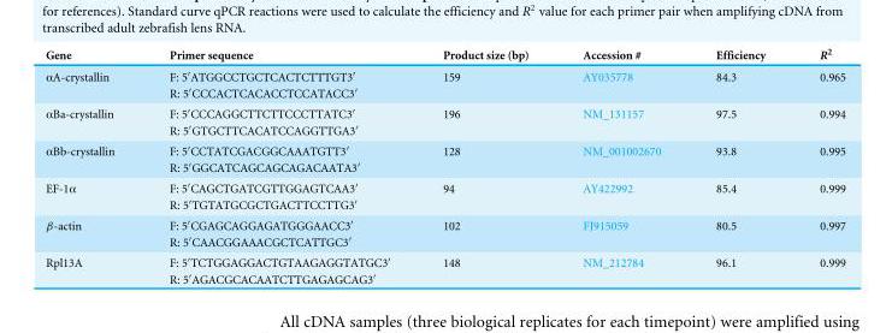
<table><thead><tr><td>Gene</td><td>Primer sequence</td><td>Product size (bp)</td><td>Accession #</td><td>Efficiency</td><td>R<sup>2</sup></td></tr></thead><tbody><tr><td>αA-crystallin</td><td>F: 5′ATGGCCTGCTCACTCTTTGT3′ R: 5′CCCACTCACACCTCCATACC3′</td><td>159</td><td>AY035778</td><td>84.3</td><td>0.965</td></tr><tr><td>αBa-crystallin</td><td>F: 5′CCCAGGCTTCTTCCCTTATC3′ R: 5′GTGCTTCACATCCAGGTTGA3′</td><td>196</td><td>NM_131157</td><td>97.5</td><td>0.994</td></tr><tr><td>αBb-crystallin</td><td>F: 5′CCTATCGACGGCAAATGTT3′ R: 5′GGCATCAGCAGCAGACAATA3′</td><td>128</td><td>NM_001002670</td><td>93.8</td><td>0.995</td></tr><tr><td>EF-1α</td><td>F: 5′CAGCTGATCGTTGGAGTCAA3′ R: 5′TGTATGCGCTGACTTCCTTG3′</td><td>94</td><td>AY422992</td><td>85.4</td><td>0.999</td></tr><tr><td>β-actin</td><td>F: 5′CGAGCAGGAGATGGGAACC3′ R: 5′CAACGGAAACGCTCATTGC3′</td><td>102</td><td>FJ915059</td><td>80.5</td><td>0.997</td></tr><tr><td>Rpl13A</td><td>F: 5′TCTGGAGGACTGTAAGAGGTATGC3′ R: 5′AGACGCACAATCTTGAGAGCAG3′</td><td>148</td><td>NM_212784</td><td>96.1</td><td>0.999</td></tr></tbody></table>